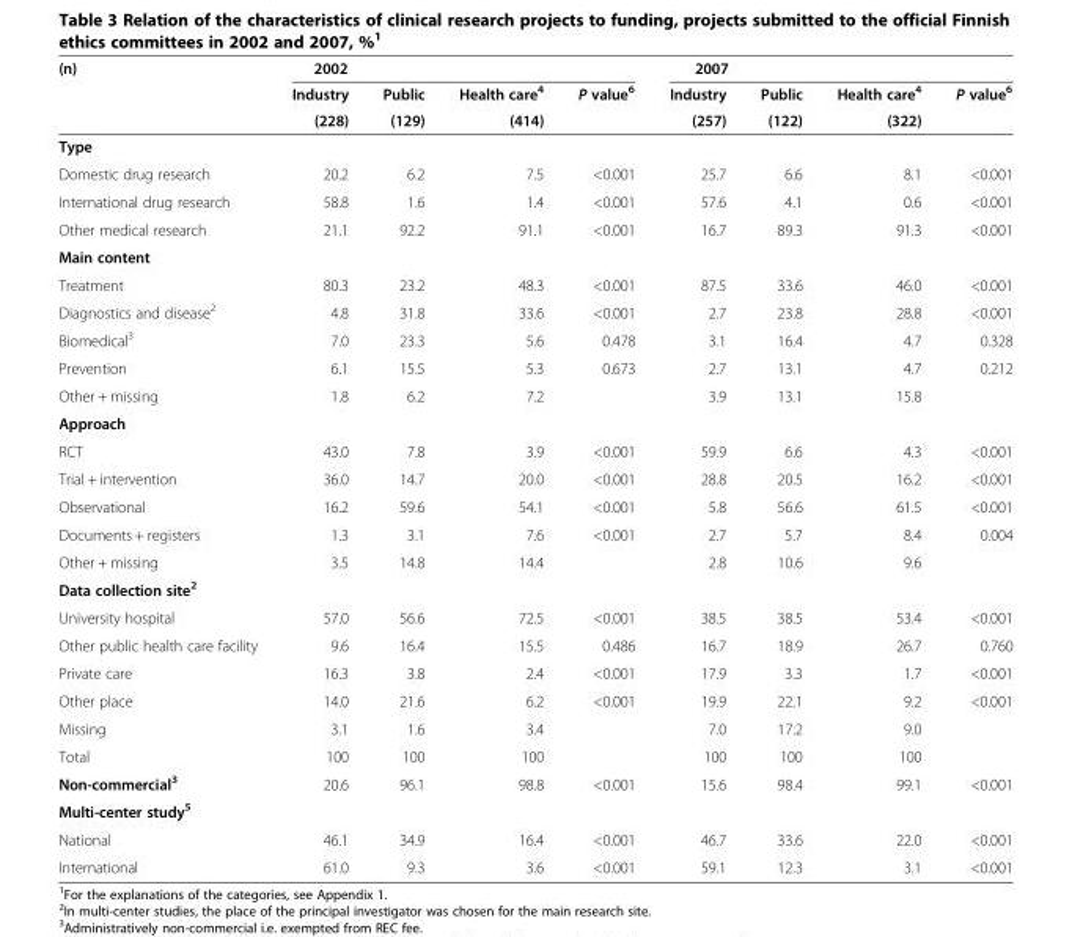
<table><thead><tr><td rowspan="3">(n)</td><td rowspan="3">2002 Industry (228)</td><td rowspan="3">Public (129)</td><td rowspan="3">Health care<sup>4</sup> (414)</td><td rowspan="3">P value<sup>6</sup></td><td rowspan="3">2007 Industry (257)</td><td rowspan="3">Public (122)</td><td rowspan="3">Health care<sup>4</sup> (322)</td><td rowspan="3">P value<sup>6</sup></td></tr><tr></tr><tr></tr></thead><tbody><tr><td colspan="9">Type</td></tr><tr><td>Domestic drug research</td><td>20.2</td><td>6.2</td><td>7.5</td><td>&lt;0.001</td><td>25.7</td><td>6.6</td><td>8.1</td><td>&lt;0.001</td></tr><tr><td>International drug research</td><td>58.8</td><td>1.6</td><td>1.4</td><td>&lt;0.001</td><td>57.6</td><td>4.1</td><td>0.6</td><td>&lt;0.001</td></tr><tr><td>Other medical research</td><td>21.1</td><td>92.2</td><td>91.1</td><td>&lt;0.001</td><td>16.7</td><td>89.3</td><td>91.3</td><td>&lt;0.001</td></tr><tr><td colspan="9">Main content</td></tr><tr><td>Treatment</td><td>80.3</td><td>23.2</td><td>48.3</td><td>&lt;0.001</td><td>87.5</td><td>33.6</td><td>46.0</td><td>&lt;0.001</td></tr><tr><td>Diagnostics and disease<sup>2</sup></td><td>4.8</td><td>31.8</td><td>33.6</td><td>&lt;0.001</td><td>2.7</td><td>23.8</td><td>28.8</td><td>&lt;0.001</td></tr><tr><td>Biomedical<sup>3</sup></td><td>7.0</td><td>23.3</td><td>5.6</td><td>0.478</td><td>3.1</td><td>16.4</td><td>4.7</td><td>0.328</td></tr><tr><td>Prevention</td><td>6.1</td><td>15.5</td><td>5.3</td><td rowspan="2">0.673</td><td>2.7</td><td>13.1</td><td>4.7</td><td rowspan="2">0.212</td></tr><tr><td>Other + missing</td><td>1.8</td><td>6.2</td><td>7.2</td><td>3.9</td><td>13.1</td><td>15.8</td></tr><tr><td colspan="9">Approach</td></tr><tr><td>RCT</td><td>43.0</td><td>7.8</td><td>3.9</td><td>&lt;0.001</td><td>59.9</td><td>6.6</td><td>4.3</td><td>&lt;0.001</td></tr><tr><td>Trial + intervention</td><td>36.0</td><td>14.7</td><td>20.0</td><td>&lt;0.001</td><td>28.8</td><td>20.5</td><td>16.2</td><td>&lt;0.001</td></tr><tr><td>Observational</td><td>16.2</td><td>59.6</td><td>54.1</td><td>&lt;0.001</td><td>5.8</td><td>56.6</td><td>61.5</td><td>&lt;0.001</td></tr><tr><td>Documents + registers</td><td>1.3</td><td>3.1</td><td>7.6</td><td rowspan="2">&lt;0.001</td><td>2.7</td><td>5.7</td><td>8.4</td><td rowspan="2">0.004</td></tr><tr><td>Other + missing</td><td>3.5</td><td>14.8</td><td>14.4</td><td>2.8</td><td>10.6</td><td>9.6</td></tr><tr><td colspan="9">Data collection site<sup>2</sup></td></tr><tr><td>University hospital</td><td>57.0</td><td>56.6</td><td>72.5</td><td>&lt;0.001</td><td>38.5</td><td>38.5</td><td>53.4</td><td>&lt;0.001</td></tr><tr><td>Other public health care facility</td><td>9.6</td><td>16.4</td><td>15.5</td><td>0.486</td><td>16.7</td><td>18.9</td><td>26.7</td><td>0.760</td></tr><tr><td>Private care</td><td>16.3</td><td>3.8</td><td>2.4</td><td>&lt;0.001</td><td>17.9</td><td>3.3</td><td>1.7</td><td>&lt;0.001</td></tr><tr><td>Other place</td><td>14.0</td><td>21.6</td><td>6.2</td><td rowspan="3">&lt;0.001</td><td>19.9</td><td>22.1</td><td>9.2</td><td rowspan="3">&lt;0.001</td></tr><tr><td>Missing</td><td>3.1</td><td>1.6</td><td>3.4</td><td>7.0</td><td>17.2</td><td>9.0</td></tr><tr><td>Total</td><td>100</td><td>100</td><td>100</td><td>100</td><td>100</td><td>100</td></tr><tr><td>Non-commercial<sup>3</sup></td><td>20.6</td><td>96.1</td><td>98.8</td><td>&lt;0.001</td><td>15.6</td><td>98.4</td><td>99.1</td><td>&lt;0.001</td></tr><tr><td colspan="9">Multi-center study<sup>5</sup></td></tr><tr><td>National</td><td>46.1</td><td>34.9</td><td>16.4</td><td>&lt;0.001</td><td>46.7</td><td>33.6</td><td>22.0</td><td>&lt;0.001</td></tr><tr><td>International</td><td>61.0</td><td>9.3</td><td>3.6</td><td>&lt;0.001</td><td>59.1</td><td>12.3</td><td>3.1</td><td>&lt;0.001</td></tr></tbody></table>